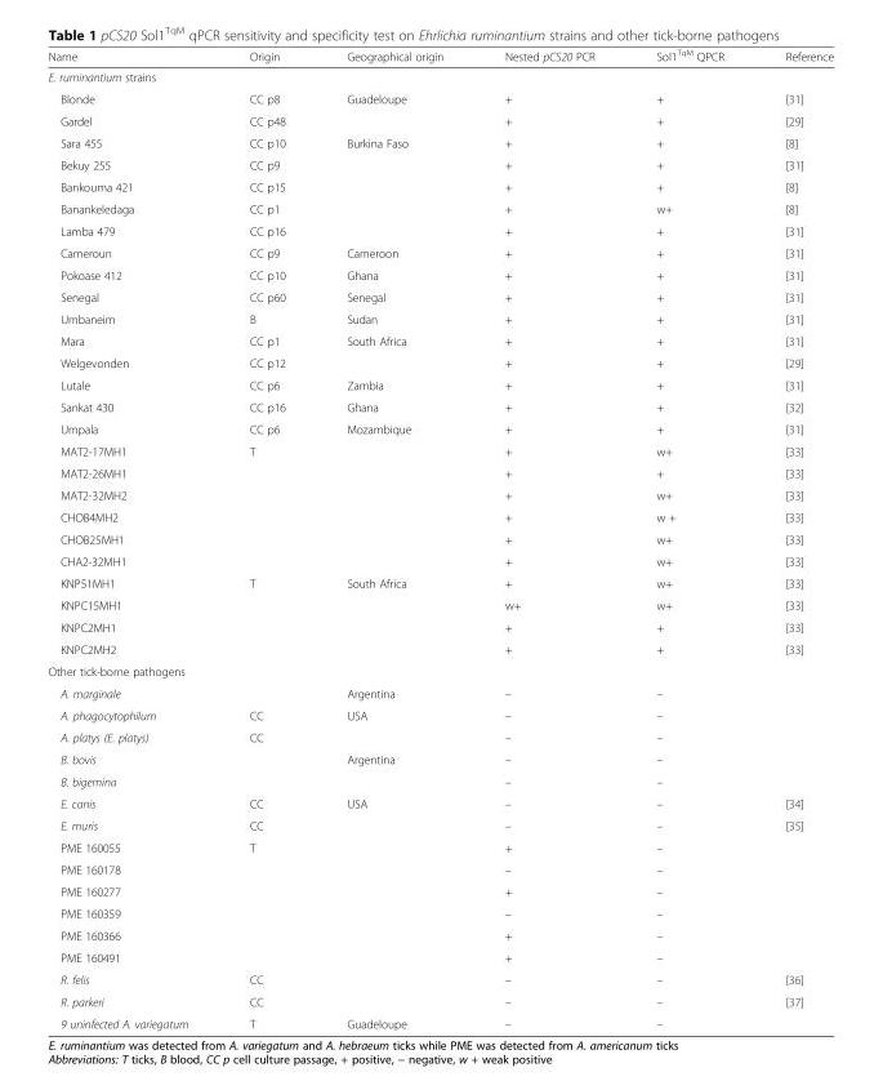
<table><thead><tr><td>Name</td><td>Origin</td><td>Geographical origin</td><td>Nested pCS20 PCR</td><td>Sol1<sup>TqM</sup> QPCR</td><td>Reference</td></tr></thead><tbody><tr><td colspan="6">E. ruminantium strains</td></tr><tr><td>Blonde</td><td>CC p8</td><td rowspan="2">Guadeloupe</td><td>+</td><td>+</td><td>[31]</td></tr><tr><td>Gardel</td><td>CC p48</td><td>+</td><td>+</td><td>[29]</td></tr><tr><td>Sara 455</td><td>CC p10</td><td rowspan="5">Burkina Faso</td><td>+</td><td>+</td><td>[8]</td></tr><tr><td>Bekuy 255</td><td>CC p9</td><td>+</td><td>+</td><td>[31]</td></tr><tr><td>Bankouma 421</td><td>CC p15</td><td>+</td><td>+</td><td>[8]</td></tr><tr><td>Banankeledaga</td><td>CC p1</td><td>+</td><td>w+</td><td>[8]</td></tr><tr><td>Lamba 479</td><td>CC p16</td><td>+</td><td>+</td><td>[31]</td></tr><tr><td>Cameroun</td><td>CC p9</td><td>Cameroon</td><td>+</td><td>+</td><td>[31]</td></tr><tr><td>Pokoase 412</td><td>CC p10</td><td>Ghana</td><td>+</td><td>+</td><td>[31]</td></tr><tr><td>Senegal</td><td>CC p60</td><td>Senegal</td><td>+</td><td>+</td><td>[31]</td></tr><tr><td>Umbaneim</td><td>B</td><td>Sudan</td><td>+</td><td>+</td><td>[31]</td></tr><tr><td>Mara</td><td>CC p1</td><td rowspan="2">South Africa</td><td>+</td><td>+</td><td>[31]</td></tr><tr><td>Welgevonden</td><td>CC p12</td><td>+</td><td>+</td><td>[29]</td></tr><tr><td>Lutale</td><td>CC p6</td><td>Zambia</td><td>+</td><td>+</td><td>[31]</td></tr><tr><td>Sankat 430</td><td>CC p16</td><td>Ghana</td><td>+</td><td>+</td><td>[32]</td></tr><tr><td>Umpala</td><td>CC p6</td><td rowspan="7">Mozambique</td><td>+</td><td>+</td><td>[31]</td></tr><tr><td>MAT2-17MH1</td><td>T</td><td>+</td><td>w+</td><td>[33]</td></tr><tr><td>MAT2-26MH1</td><td></td><td>+</td><td>+</td><td>[33]</td></tr><tr><td>MAT2-32MH2</td><td></td><td>+</td><td>w+</td><td>[33]</td></tr><tr><td>CHOB4MH2</td><td></td><td>+</td><td>w +</td><td>[33]</td></tr><tr><td>CHOB25MH1</td><td></td><td>+</td><td>w+</td><td>[33]</td></tr><tr><td>CHA2-32MH1</td><td></td><td>+</td><td>w+</td><td>[33]</td></tr><tr><td>KNP51MH1</td><td>T</td><td rowspan="4">South Africa</td><td>+</td><td>w+</td><td>[33]</td></tr><tr><td>KNPC15MH1</td><td></td><td>w+</td><td>w+</td><td>[33]</td></tr><tr><td>KNPC2MH1</td><td></td><td>+</td><td>+</td><td>[33]</td></tr><tr><td>KNPC2MH2</td><td></td><td>+</td><td>+</td><td>[33]</td></tr><tr><td colspan="6">Other tick-borne pathogens</td></tr><tr><td>A. marginale</td><td></td><td>Argentina</td><td>–</td><td>–</td><td></td></tr><tr><td>A. phagocytophilum</td><td>CC</td><td rowspan="2">USA</td><td>–</td><td>–</td><td></td></tr><tr><td>A. platys (E. platys)</td><td>CC</td><td>–</td><td>–</td><td></td></tr><tr><td>B. bovis</td><td></td><td rowspan="2">Argentina</td><td>–</td><td>–</td><td></td></tr><tr><td>B. bigemina</td><td></td><td>–</td><td>–</td><td></td></tr><tr><td>E. canis</td><td>CC</td><td rowspan="10">USA</td><td>–</td><td>–</td><td>[34]</td></tr><tr><td>E. muris</td><td>CC</td><td>–</td><td>–</td><td>[35]</td></tr><tr><td>PME 160055</td><td>T</td><td>+</td><td>–</td><td></td></tr><tr><td>PME 160178</td><td></td><td>–</td><td>–</td><td></td></tr><tr><td>PME 160277</td><td></td><td>+</td><td>–</td><td></td></tr><tr><td>PME 160359</td><td></td><td>–</td><td>–</td><td></td></tr><tr><td>PME 160366</td><td></td><td>+</td><td>–</td><td></td></tr><tr><td>PME 160491</td><td></td><td>+</td><td>–</td><td></td></tr><tr><td>R. felis</td><td>CC</td><td>–</td><td>–</td><td>[36]</td></tr><tr><td>R. parkeri</td><td>CC</td><td>–</td><td>–</td><td>[37]</td></tr><tr><td>9 uninfected A. variegatum</td><td>T</td><td>Guadeloupe</td><td>–</td><td>–</td><td></td></tr></tbody></table>